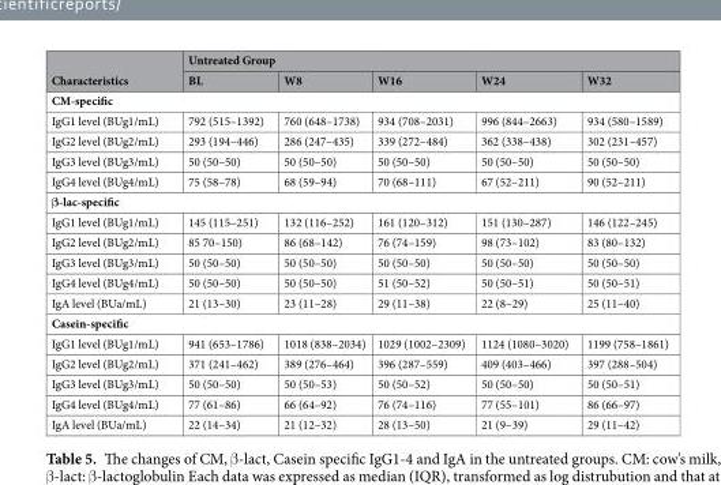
<table><thead><tr><td rowspan="2">Characteristics</td><td colspan="5">Untreated Group</td></tr><tr><td>BL</td><td>W8</td><td>W16</td><td>W24</td><td>W32</td></tr></thead><tbody><tr><td colspan="6">CM-specific</td></tr><tr><td>IgG1 level (BUg1/mL)</td><td>792 (515–1392)</td><td>760 (648–1738)</td><td>934 (708–2031)</td><td>996 (844–2663)</td><td>934 (580–1589)</td></tr><tr><td>IgG2 level (BUg2/mL)</td><td>293 (194–446)</td><td>286 (247–435)</td><td>339 (272–484)</td><td>362 (338–438)</td><td>302 (231–457)</td></tr><tr><td>IgG3 level (BUg3/mL)</td><td>50 (50–50)</td><td>50 (50–50)</td><td>50 (50–50)</td><td>50 (50–50)</td><td>50 (50–50)</td></tr><tr><td>IgG4 level (BUg4/mL)</td><td>75 (58–78)</td><td>68 (59–94)</td><td>70 (68–111)</td><td>67 (52–211)</td><td>90 (52–211)</td></tr><tr><td colspan="6">β-lac-specific</td></tr><tr><td>IgG1 level (BUg1/mL)</td><td>145 (115–251)</td><td>132 (116–252)</td><td>161 (120–312)</td><td>151 (130–287)</td><td>146 (122–245)</td></tr><tr><td>IgG2 level (BUg2/mL)</td><td>85 70–150)</td><td>86 (68–142)</td><td>76 (74–159)</td><td>98 (73–102)</td><td>83 (80–132)</td></tr><tr><td>IgG3 level (BUg3/mL)</td><td>50 (50–50)</td><td>50 (50–50)</td><td>50 (50–50)</td><td>50 (50–50)</td><td>50 (50–50)</td></tr><tr><td>IgG4 level (BUg4/mL)</td><td>50 (50–50)</td><td>50 (50–50)</td><td>51 (50–52)</td><td>50 (50–51)</td><td>50 (50–51)</td></tr><tr><td>IgA level (BUa/mL)</td><td>21 (13–30)</td><td>23 (11–28)</td><td>29 (11–38)</td><td>22 (8–29)</td><td>25 (11–40)</td></tr><tr><td colspan="6">Casein-specific</td></tr><tr><td>IgG1 level (BUg1/mL)</td><td>941 (653–1786)</td><td>1018 (838–2034)</td><td>1029 (1002–2309)</td><td>1124 (1080–3020)</td><td>1199 (758–1861)</td></tr><tr><td>IgG2 level (BUg2/mL)</td><td>371 (241–462)</td><td>389 (276–464)</td><td>396 (287–559)</td><td>409 (403–466)</td><td>397 (288–504)</td></tr><tr><td>IgG3 level (BUg3/mL)</td><td>50 (50–50)</td><td>50 (50–53)</td><td>50 (50–52)</td><td>50 (50–50)</td><td>50 (50–51)</td></tr><tr><td>IgG4 level (BUg4/mL)</td><td>77 (61–86)</td><td>66 (64–92)</td><td>76 (74–116)</td><td>77 (55–101)</td><td>86 (66–97)</td></tr><tr><td>IgA level (BUa/mL)</td><td>22 (14–34)</td><td>21 (12–32)</td><td>28 (13–50)</td><td>21 (9–39)</td><td>29 (11–42)</td></tr></tbody></table>